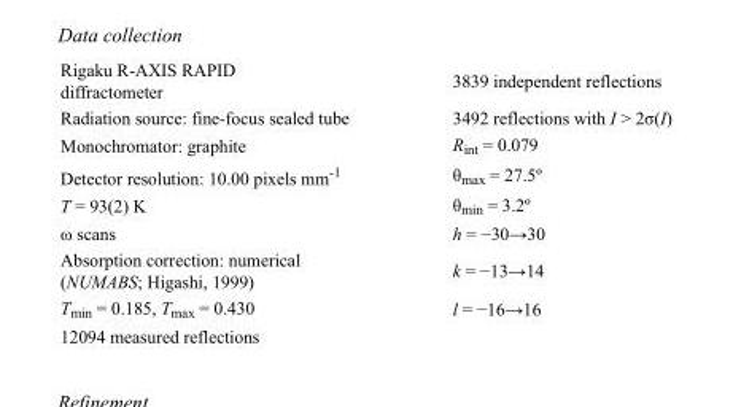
<table><tbody><tr><td>Rigaku R-AXIS RAPID diffractometer</td><td>3839 independent reflections</td></tr><tr><td>Radiation source: fine-focus sealed tube</td><td>3492 reflections with I &gt; 2σ(I)</td></tr><tr><td>Monochromator: graphite</td><td>R<sub>int</sub> = 0.079</td></tr><tr><td>Detector resolution: 10.00 pixels mm<sup>-1</sup></td><td>θ<sub>max</sub> = 27.5º</td></tr><tr><td>T = 93(2) K</td><td>θ<sub>min</sub> = 3.2º</td></tr><tr><td>ω scans</td><td>h = −30→30</td></tr><tr><td>Absorption correction: numerical (NUMABS; Higashi, 1999)</td><td>k = −13→14</td></tr><tr><td>T<sub>min</sub> = 0.185, T<sub>max</sub> = 0.430</td><td>l = −16→16</td></tr><tr><td>12094 measured reflections</td><td></td></tr></tbody></table>